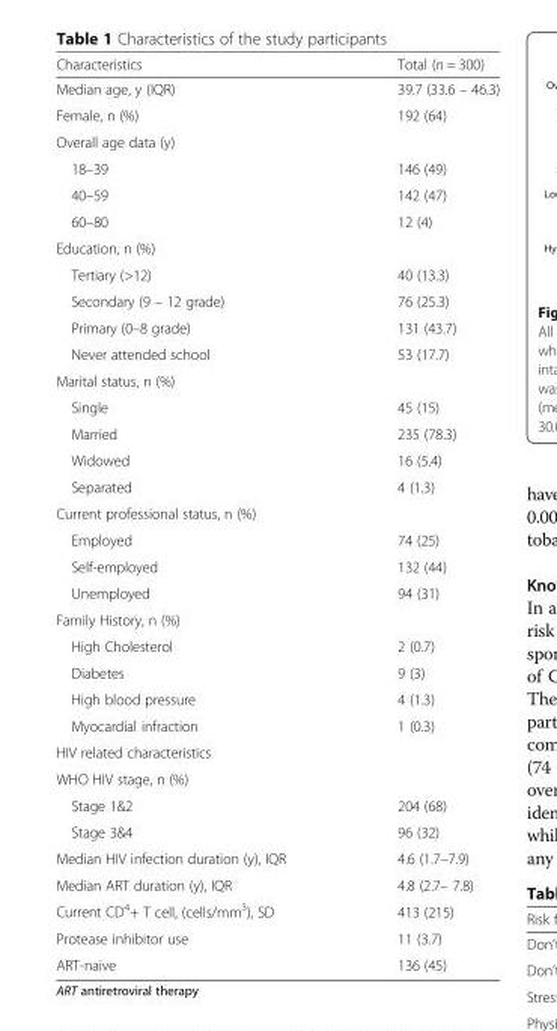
<table><thead><tr><td>Characteristics</td><td>Total (n = 300)</td></tr></thead><tbody><tr><td>Median age, y (IQR)</td><td>39.7 (33.6 – 46.3)</td></tr><tr><td>Female, n (%)</td><td>192 (64)</td></tr><tr><td colspan="2">Overall age data (y)</td></tr><tr><td>18–39</td><td>146 (49)</td></tr><tr><td>40–59</td><td>142 (47)</td></tr><tr><td>60–80</td><td>12 (4)</td></tr><tr><td colspan="2">Education, n (%)</td></tr><tr><td>Tertiary (&gt;12)</td><td>40 (13.3)</td></tr><tr><td>Secondary (9 – 12 grade)</td><td>76 (25.3)</td></tr><tr><td>Primary (0–8 grade)</td><td>131 (43.7)</td></tr><tr><td>Never attended school</td><td>53 (17.7)</td></tr><tr><td colspan="2">Marital status, n (%)</td></tr><tr><td>Single</td><td>45 (15)</td></tr><tr><td>Married</td><td>235 (78.3)</td></tr><tr><td>Widowed</td><td>16 (5.4)</td></tr><tr><td>Separated</td><td>4 (1.3)</td></tr><tr><td colspan="2">Current professional status, n (%)</td></tr><tr><td>Employed</td><td>74 (25)</td></tr><tr><td>Self-employed</td><td>132 (44)</td></tr><tr><td>Unemployed</td><td>94 (31)</td></tr><tr><td colspan="2">Family History, n (%)</td></tr><tr><td>High Cholesterol</td><td>2 (0.7)</td></tr><tr><td>Diabetes</td><td>9 (3)</td></tr><tr><td>High blood pressure</td><td>4 (1.3)</td></tr><tr><td>Myocardial infraction</td><td>1 (0.3)</td></tr><tr><td colspan="2">HIV related characteristics</td></tr><tr><td colspan="2">WHO HIV stage, n (%)</td></tr><tr><td>Stage 1&amp;2</td><td>204 (68)</td></tr><tr><td>Stage 3&amp;4</td><td>96 (32)</td></tr><tr><td>Median HIV infection duration (y), IQR</td><td>4.6 (1.7–7.9)</td></tr><tr><td>Median ART duration (y), IQR</td><td>4.8 (2.7– 7.8)</td></tr><tr><td>Current CD<sup>4</sup>+ T cell, (cells/mm<sup>3</sup>), SD</td><td>413 (215)</td></tr><tr><td>Protease inhibitor use</td><td>11 (3.7)</td></tr><tr><td>ART-naive</td><td>136 (45)</td></tr></tbody></table>